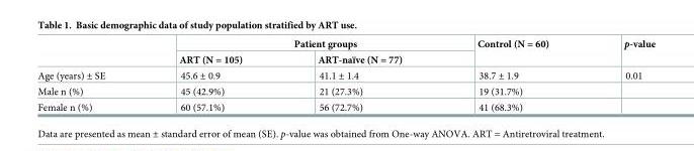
<table><thead><tr><td rowspan="2"></td><td colspan="2">Patient groups</td><td rowspan="2">Control (N = 60)</td><td rowspan="2">p-value</td></tr><tr><td>ART (N = 105)</td><td>ART-naïve (N = 77)</td></tr></thead><tbody><tr><td>Age (years) ± SE</td><td>45.6 ± 0.9</td><td>41.1 ± 1.4</td><td>38.7 ± 1.9</td><td>0.01</td></tr><tr><td>Male n (%)</td><td>45 (42.9%)</td><td>21 (27.3%)</td><td>19 (31.7%)</td><td></td></tr><tr><td>Female n (%)</td><td>60 (57.1%)</td><td>56 (72.7%)</td><td>41 (68.3%)</td><td></td></tr></tbody></table>